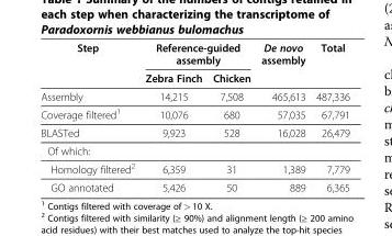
<table><thead><tr><td rowspan="2">Step</td><td colspan="2">Reference-guided assembly</td><td rowspan="2">De novo assembly</td><td rowspan="2">Total</td></tr><tr><td>Zebra Finch</td><td>Chicken</td></tr></thead><tbody><tr><td>Assembly</td><td>14,215</td><td>7,508</td><td>465,613</td><td>487,336</td></tr><tr><td>Coverage filtered<sup>1</sup></td><td>10,076</td><td>680</td><td>57,035</td><td>67,791</td></tr><tr><td>BLASTed</td><td>9,923</td><td>528</td><td>16,028</td><td>26,479</td></tr><tr><td colspan="5">Of which:</td></tr><tr><td>Homology filtered<sup>2</sup></td><td>6,359</td><td>31</td><td>1,389</td><td>7,779</td></tr><tr><td>GO annotated</td><td>5,426</td><td>50</td><td>889</td><td>6,365</td></tr></tbody></table>